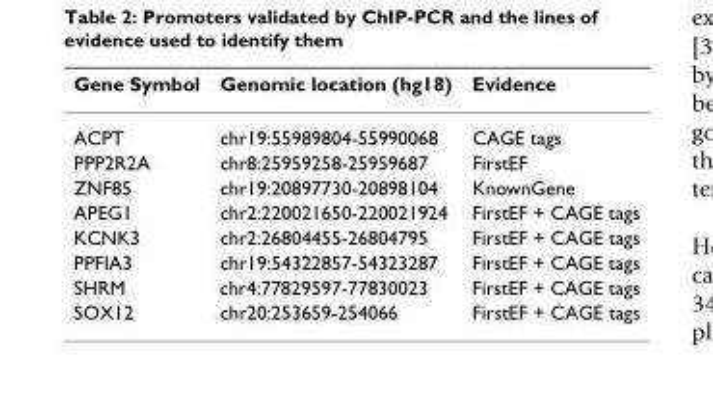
<table><thead><tr><td>Gene Symbol</td><td>Genomic location (hg18)</td><td>Evidence</td></tr></thead><tbody><tr><td>ACPT</td><td>chr19:55989804-55990068</td><td>CAGE tags</td></tr><tr><td>PPP2R2A</td><td>chr8:25959258-25959687</td><td>FirstEF</td></tr><tr><td>ZNF85</td><td>chr19:20897730-20898104</td><td>KnownGene</td></tr><tr><td>APEG1</td><td>chr2:220021650-220021924</td><td>FirstEF + CAGE tags</td></tr><tr><td>KCNK3</td><td>chr2:26804455-26804795</td><td>FirstEF + CAGE tags</td></tr><tr><td>PPFIA3</td><td>chr19:54322857-54323287</td><td>FirstEF + CAGE tags</td></tr><tr><td>SHRM</td><td>chr4:77829597-77830023</td><td>FirstEF + CAGE tags</td></tr><tr><td>SOX12</td><td>chr20:253659-254066</td><td>FirstEF + CAGE tags</td></tr></tbody></table>